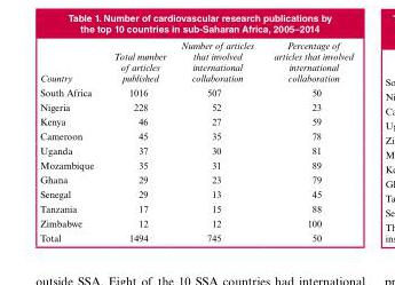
<table><thead><tr><td>Country</td><td>Total number of articles published</td><td>Number of articles that involved international collaboration</td><td>Percentage of articles that involved international collaboration</td></tr></thead><tbody><tr><td>South Africa</td><td>1016</td><td>507</td><td>50</td></tr><tr><td>Nigeria</td><td>228</td><td>52</td><td>23</td></tr><tr><td>Kenya</td><td>46</td><td>27</td><td>59</td></tr><tr><td>Cameroon</td><td>45</td><td>35</td><td>78</td></tr><tr><td>Uganda</td><td>37</td><td>30</td><td>81</td></tr><tr><td>Mozambique</td><td>35</td><td>31</td><td>89</td></tr><tr><td>Ghana</td><td>29</td><td>23</td><td>79</td></tr><tr><td>Senegal</td><td>29</td><td>13</td><td>45</td></tr><tr><td>Tanzania</td><td>17</td><td>15</td><td>88</td></tr><tr><td>Zimbabwe</td><td>12</td><td>12</td><td>100</td></tr><tr><td>Total</td><td>1494</td><td>745</td><td>50</td></tr></tbody></table>